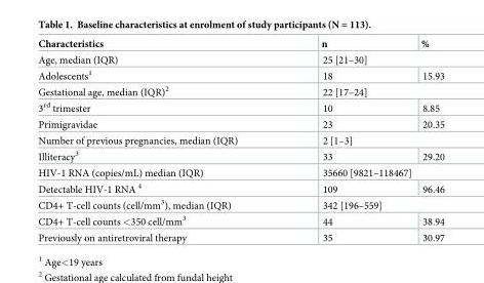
<table><thead><tr><td>Characteristics</td><td>n</td><td>%</td></tr></thead><tbody><tr><td>Age, median (IQR)</td><td colspan="2">25 [21–30]</td></tr><tr><td>Adolescents<sup>1</sup></td><td>18</td><td>15.93</td></tr><tr><td>Gestational age, median (IQR)<sup>2</sup></td><td colspan="2">22 [17–24]</td></tr><tr><td>3<sup>rd</sup> trimester</td><td>10</td><td>8.85</td></tr><tr><td>Primigravidae</td><td>23</td><td>20.35</td></tr><tr><td>Number of previous pregnancies, median (IQR)</td><td colspan="2">2 [1–3]</td></tr><tr><td>Illiteracy<sup>3</sup></td><td>33</td><td>29.20</td></tr><tr><td>HIV-1 RNA (copies/mL) median (IQR)</td><td colspan="2">35660 [9821–118467]</td></tr><tr><td>Detectable HIV-1 RNA <sup>4</sup></td><td>109</td><td>96.46</td></tr><tr><td>CD4+ T-cell counts (cell/mm<sup>3</sup>), median (IQR)</td><td colspan="2">342 [196–559]</td></tr><tr><td>CD4+ T-cell counts &lt;350 cell/mm<sup>3</sup></td><td>44</td><td>38.94</td></tr><tr><td>Previously on antiretroviral therapy</td><td>35</td><td>30.97</td></tr></tbody></table>